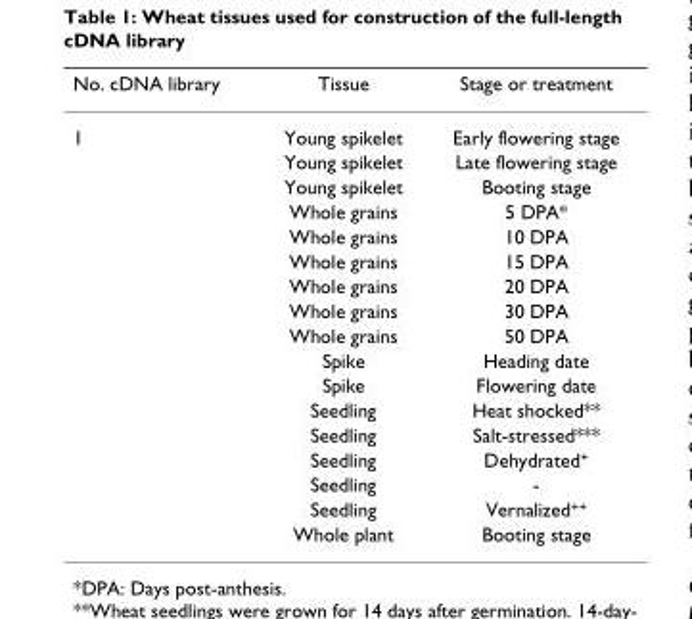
<table><thead><tr><td>No. cDNA library</td><td>Tissue</td><td>Stage or treatment</td></tr></thead><tbody><tr><td rowspan="17">1</td><td>Young spikelet</td><td>Early flowering stage</td></tr><tr><td>Young spikelet</td><td>Late flowering stage</td></tr><tr><td>Young spikelet</td><td>Booting stage</td></tr><tr><td>Whole grains</td><td>5 DPA*</td></tr><tr><td>Whole grains</td><td>10 DPA</td></tr><tr><td>Whole grains</td><td>15 DPA</td></tr><tr><td>Whole grains</td><td>20 DPA</td></tr><tr><td>Whole grains</td><td>30 DPA</td></tr><tr><td>Whole grains</td><td>50 DPA</td></tr><tr><td>Spike</td><td>Heading date</td></tr><tr><td>Spike</td><td>Flowering date</td></tr><tr><td>Seedling</td><td>Heat shocked**</td></tr><tr><td>Seedling</td><td>Salt-stressed***</td></tr><tr><td>Seedling</td><td>Dehydrated<sup>+</sup></td></tr><tr><td>Seedling</td><td>-</td></tr><tr><td>Seedling</td><td>Vernalized<sup>++</sup></td></tr><tr><td>Whole plant</td><td>Booting stage</td></tr></tbody></table>